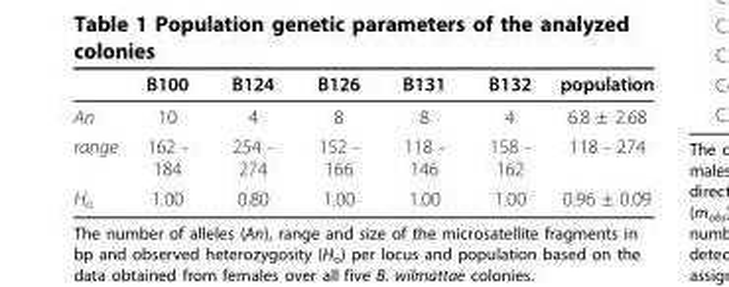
<table><thead><tr><td></td><td>B100</td><td>B124</td><td>B126</td><td>B131</td><td>B132</td><td>population</td></tr></thead><tbody><tr><td>An</td><td>10</td><td>4</td><td>8</td><td>8</td><td>4</td><td>6.8 ± 2.68</td></tr><tr><td>range</td><td>162 - 184</td><td>254 - 274</td><td>152 - 166</td><td>118 - 146</td><td>158 - 162</td><td>118 - 274</td></tr><tr><td>H<sub>o</sub></td><td>1.00</td><td>0.80</td><td>1.00</td><td>1.00</td><td>1.00</td><td>0.96 ± 0.09</td></tr></tbody></table>